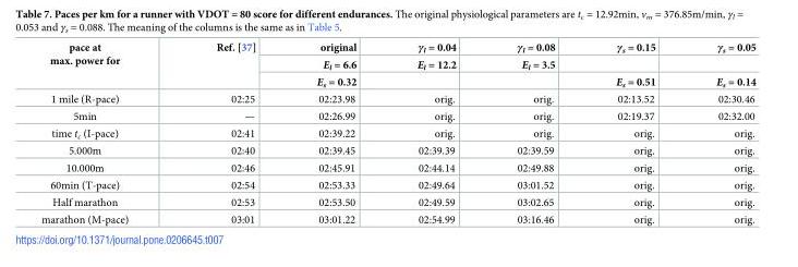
<table><thead><tr><td rowspan="3">pace at max. power for</td><td rowspan="3">Ref. [37]</td><td rowspan="3">original E<sub>l</sub> = 6.6 E<sub>s</sub> = 0.32</td><td rowspan="3">γ<sub>l</sub> = 0.04 E<sub>l</sub> = 12.2</td><td rowspan="3">γ<sub>l</sub> = 0.08 E<sub>l</sub> = 3.5</td><td rowspan="3">γ<sub>s</sub> = 0.15 E<sub>s</sub> = 0.51</td><td rowspan="3">γ<sub>s</sub> = 0.05 E<sub>s</sub> = 0.14</td></tr><tr></tr><tr></tr></thead><tbody><tr><td>1 mile (R-pace)</td><td>02:25</td><td>02:23.98</td><td>orig.</td><td>orig.</td><td>02:13.52</td><td>02:30.46</td></tr><tr><td>5min</td><td>—</td><td>02:26.99</td><td>orig.</td><td>orig.</td><td>02:19.37</td><td>02:32.00</td></tr><tr><td>time t<sub>c</sub> (I-pace)</td><td>02:41</td><td>02:39.22</td><td>orig.</td><td>orig.</td><td>orig.</td><td>orig.</td></tr><tr><td>5.000m</td><td>02:40</td><td>02:39.45</td><td>02:39.39</td><td>02:39.59</td><td>orig.</td><td>orig.</td></tr><tr><td>10.000m</td><td>02:46</td><td>02:45.91</td><td>02:44.14</td><td>02:49.88</td><td>orig.</td><td>orig.</td></tr><tr><td>60min (T-pace)</td><td>02:54</td><td>02:53.33</td><td>02:49.64</td><td>03:01.52</td><td>orig.</td><td>orig.</td></tr><tr><td>Half marathon</td><td>02:53</td><td>02:53.50</td><td>02:49.59</td><td>03:02.65</td><td>orig.</td><td>orig.</td></tr><tr><td>marathon (M-pace)</td><td>03:01</td><td>03:01.22</td><td>02:54.99</td><td>03:16.46</td><td>orig.</td><td>orig.</td></tr></tbody></table>